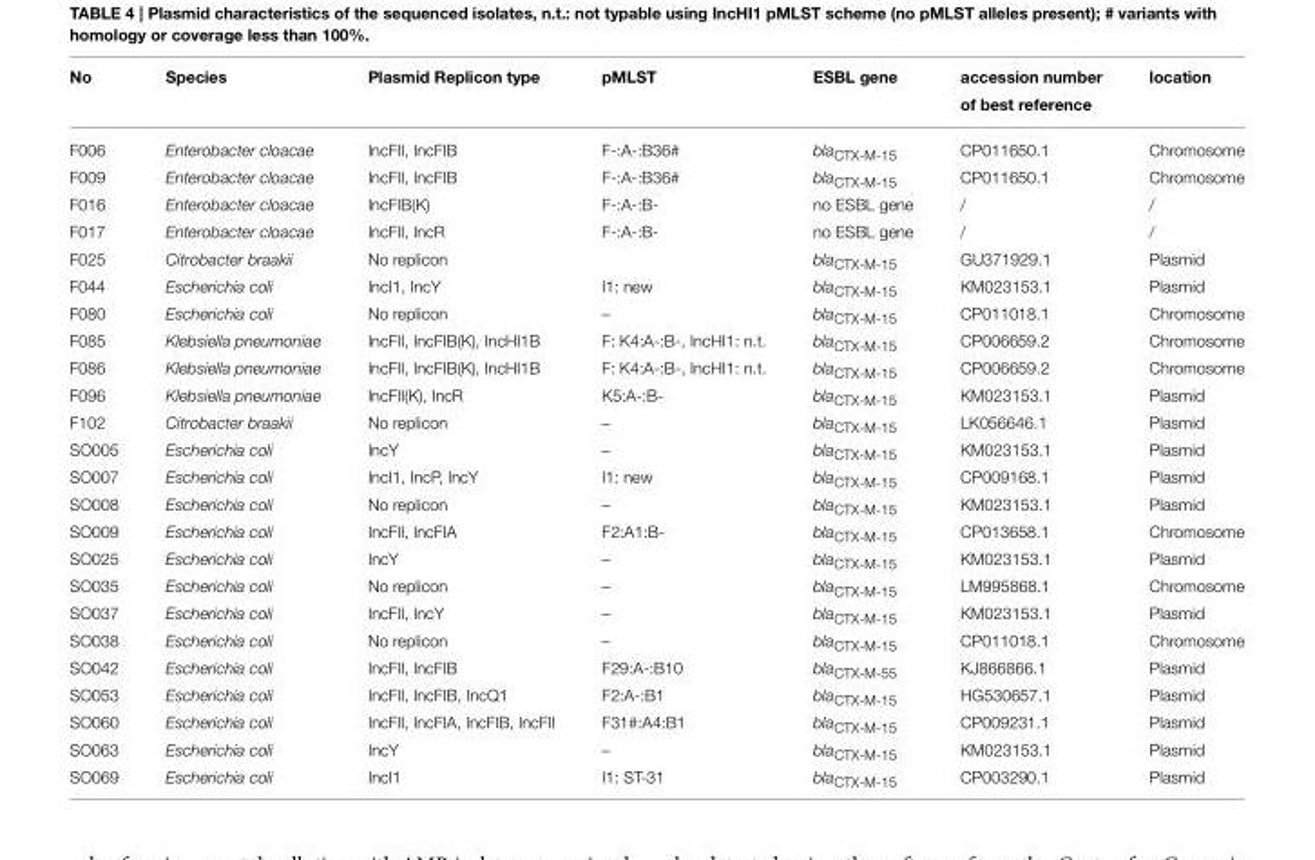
<table><thead><tr><td>No</td><td>Species</td><td>Plasmid Replicon type</td><td>pMLST</td><td>ESBL gene</td><td>accession number of best reference</td><td>location</td></tr></thead><tbody><tr><td>F006</td><td>Enterobacter cloacae</td><td>IncFII, IncFIB</td><td>F-:A-:B36#</td><td>bla<sub>CTX-M-15</sub></td><td>CP011650.1</td><td>Chromosome</td></tr><tr><td>F009</td><td>Enterobacter cloacae</td><td>IncFII, IncFIB</td><td>F-:A-:B36#</td><td>bla<sub>CTX-M-15</sub></td><td>CP011650.1</td><td>Chromosome</td></tr><tr><td>F016</td><td>Enterobacter cloacae</td><td>IncFIB(K)</td><td>F-:A-:B-</td><td>no ESBL gene</td><td>/</td><td>/</td></tr><tr><td>F017</td><td>Enterobacter cloacae</td><td>IncFII, IncR</td><td>F-:A-:B-</td><td>no ESBL gene</td><td>/</td><td>/</td></tr><tr><td>F025</td><td>Citrobacter braakii</td><td>No replicon</td><td></td><td>bla<sub>CTX-M-15</sub></td><td>GU371929.1</td><td>Plasmid</td></tr><tr><td>F044</td><td>Escherichia coli</td><td>IncI1, IncY</td><td>I1: new</td><td>bla<sub>CTX-M-15</sub></td><td>KM023153.1</td><td>Plasmid</td></tr><tr><td>F080</td><td>Escherichia coli</td><td>No replicon</td><td>–</td><td>bla<sub>CTX-M-15</sub></td><td>CP011018.1</td><td>Chromosome</td></tr><tr><td>F085</td><td>Klebsiella pneumoniae</td><td>IncFII, IncFIB(K), IncHI1B</td><td>F: K4:A-:B-, IncHI1: n.t.</td><td>bla<sub>CTX-M-15</sub></td><td>CP006659.2</td><td>Chromosome</td></tr><tr><td>F086</td><td>Klebsiella pneumoniae</td><td>IncFII, IncFIB(K), IncHI1B</td><td>F: K4:A-:B-, IncHI1: n.t.</td><td>bla<sub>CTX-M-15</sub></td><td>CP006659.2</td><td>Chromosome</td></tr><tr><td>F096</td><td>Klebsiella pneumoniae</td><td>IncFII(K), IncR</td><td>K5:A-:B-</td><td>bla<sub>CTX-M-15</sub></td><td>KM023153.1</td><td>Plasmid</td></tr><tr><td>F102</td><td>Citrobacter braakii</td><td>No replicon</td><td>–</td><td>bla<sub>CTX-M-15</sub></td><td>LK056646.1</td><td>Plasmid</td></tr><tr><td>SO005</td><td>Escherichia coli</td><td>IncY</td><td>–</td><td>bla<sub>CTX-M-15</sub></td><td>KM023153.1</td><td>Plasmid</td></tr><tr><td>SO007</td><td>Escherichia coli</td><td>IncI1, IncP, IncY</td><td>I1: new</td><td>bla<sub>CTX-M-15</sub></td><td>CP009168.1</td><td>Plasmid</td></tr><tr><td>SO008</td><td>Escherichia coli</td><td>No replicon</td><td>–</td><td>bla<sub>CTX-M-15</sub></td><td>KM023153.1</td><td>Plasmid</td></tr><tr><td>SO009</td><td>Escherichia coli</td><td>IncFII, IncFIA</td><td>F2:A1:B-</td><td>bla<sub>CTX-M-15</sub></td><td>CP013658.1</td><td>Chromosome</td></tr><tr><td>SO025</td><td>Escherichia coli</td><td>IncY</td><td>–</td><td>bla<sub>CTX-M-15</sub></td><td>KM023153.1</td><td>Plasmid</td></tr><tr><td>SO035</td><td>Escherichia coli</td><td>No replicon</td><td>–</td><td>bla<sub>CTX-M-15</sub></td><td>LM995868.1</td><td>Chromosome</td></tr><tr><td>SO037</td><td>Escherichia coli</td><td>IncFII, IncY</td><td>–</td><td>bla<sub>CTX-M-15</sub></td><td>KM023153.1</td><td>Plasmid</td></tr><tr><td>SO038</td><td>Escherichia coli</td><td>No replicon</td><td>–</td><td>bla<sub>CTX-M-15</sub></td><td>CP011018.1</td><td>Chromosome</td></tr><tr><td>SO042</td><td>Escherichia coli</td><td>IncFII, IncFIB</td><td>F29:A-:B10</td><td>bla<sub>CTX-M-55</sub></td><td>KJ866866.1</td><td>Plasmid</td></tr><tr><td>SO053</td><td>Escherichia coli</td><td>IncFII, IncFIB, IncQ1</td><td>F2:A-:B1</td><td>bla<sub>CTX-M-15</sub></td><td>HG530657.1</td><td>Plasmid</td></tr><tr><td>SO060</td><td>Escherichia coli</td><td>IncFII, IncFIA, IncFIB, IncFII</td><td>F31#:A4:B1</td><td>bla<sub>CTX-M-15</sub></td><td>CP009231.1</td><td>Plasmid</td></tr><tr><td>SO063</td><td>Escherichia coli</td><td>IncY</td><td>–</td><td>bla<sub>CTX-M-15</sub></td><td>KM023153.1</td><td>Plasmid</td></tr><tr><td>SO069</td><td>Escherichia coli</td><td>IncI1</td><td>I1: ST-31</td><td>bla<sub>CTX-M-15</sub></td><td>CP003290.1</td><td>Plasmid</td></tr></tbody></table>